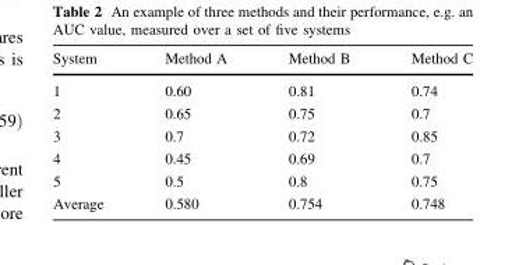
<table><thead><tr><td>System</td><td>Method A</td><td>Method B</td><td>Method C</td></tr></thead><tbody><tr><td>1</td><td>0.60</td><td>0.81</td><td>0.74</td></tr><tr><td>2</td><td>0.65</td><td>0.75</td><td>0.7</td></tr><tr><td>3</td><td>0.7</td><td>0.72</td><td>0.85</td></tr><tr><td>4</td><td>0.45</td><td>0.69</td><td>0.7</td></tr><tr><td>5</td><td>0.5</td><td>0.8</td><td>0.75</td></tr><tr><td>Average</td><td>0.580</td><td>0.754</td><td>0.748</td></tr></tbody></table>